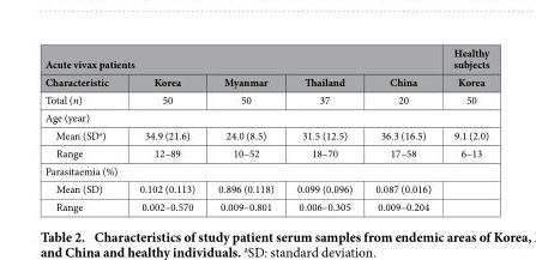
<table><thead><tr><td colspan="5">Acute vivax patients</td><td rowspan="2">Healthy subjects Korea</td></tr><tr><td>Characteristic</td><td>Korea</td><td>Myanmar</td><td>Thailand</td><td>China</td></tr></thead><tbody><tr><td>Total (n)</td><td>50</td><td>50</td><td>37</td><td>20</td><td>50</td></tr><tr><td colspan="6">Age (year)</td></tr><tr><td>Mean (SD<sup>a</sup>)</td><td>34.9 (21.6)</td><td>24.0 (8.5)</td><td>31.5 (12.5)</td><td>36.3 (16.5)</td><td>9.1 (2.0)</td></tr><tr><td>Range</td><td>12–89</td><td>10–52</td><td>18–70</td><td>17–58</td><td>6–13</td></tr><tr><td colspan="6">Parasitaemia (%)</td></tr><tr><td>Mean (SD)</td><td>0.102 (0.113)</td><td>0.896 (0.118)</td><td>0.099 (0.096)</td><td>0.087 (0.016)</td><td></td></tr><tr><td>Range</td><td>0.002–0.570</td><td>0.009–0.801</td><td>0.006–0.305</td><td>0.009–0.204</td><td></td></tr></tbody></table>